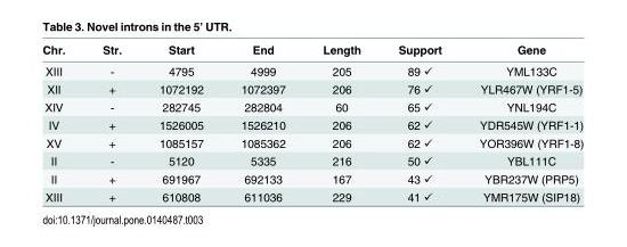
<table><thead><tr><td>Chr.</td><td>Str.</td><td>Start</td><td>End</td><td>Length</td><td>Support</td><td>Gene</td></tr></thead><tbody><tr><td>XIII</td><td>-</td><td>4795</td><td>4999</td><td>205</td><td>89 ✓</td><td>YML133C</td></tr><tr><td>XII</td><td>+</td><td>1072192</td><td>1072397</td><td>206</td><td>76 ✓</td><td>YLR467W (YRF1-5)</td></tr><tr><td>XIV</td><td>-</td><td>282745</td><td>282804</td><td>60</td><td>65 ✓</td><td>YNL194C</td></tr><tr><td>IV</td><td>+</td><td>1526005</td><td>1526210</td><td>206</td><td>62 ✓</td><td>YDR545W (YRF1-1)</td></tr><tr><td>XV</td><td>+</td><td>1085157</td><td>1085362</td><td>206</td><td>62 ✓</td><td>YOR396W (YRF1-8)</td></tr><tr><td>II</td><td>-</td><td>5120</td><td>5335</td><td>216</td><td>50 ✓</td><td>YBL111C</td></tr><tr><td>II</td><td>+</td><td>691967</td><td>692133</td><td>167</td><td>43 ✓</td><td>YBR237W (PRP5)</td></tr><tr><td>XIII</td><td>+</td><td>610808</td><td>611036</td><td>229</td><td>41 ✓</td><td>YMR175W (SIP18)</td></tr></tbody></table>